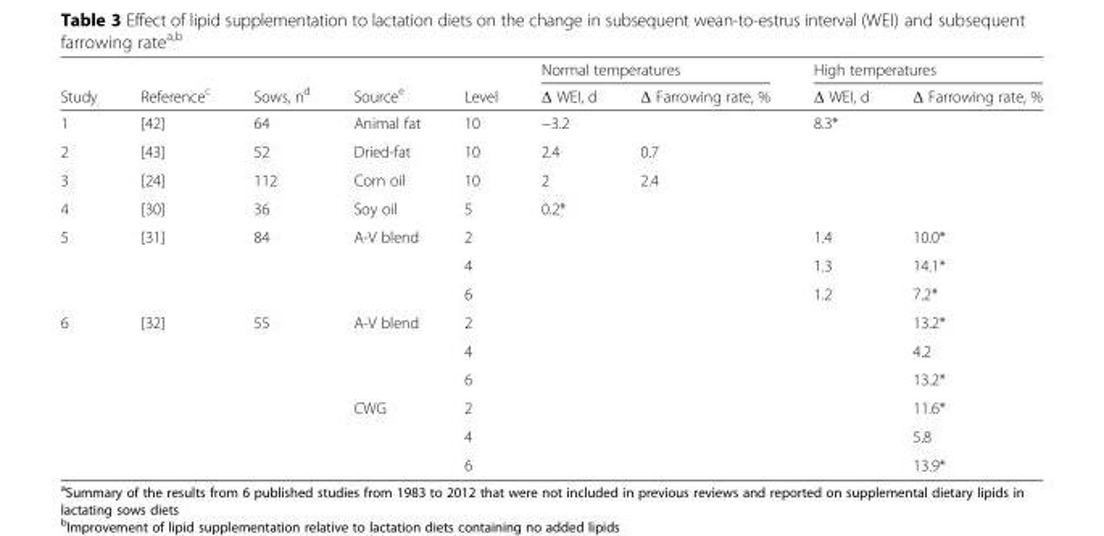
<table><thead><tr><td rowspan="2">Study</td><td rowspan="2">Reference<sup>c</sup></td><td rowspan="2">Sows, n<sup>d</sup></td><td rowspan="2">Source<sup>e</sup></td><td rowspan="2">Level</td><td colspan="2">Normal temperatures</td><td colspan="2">High temperatures</td></tr><tr><td>Δ WEI, d</td><td>Δ Farrowing rate, %</td><td>Δ WEI, d</td><td>Δ Farrowing rate, %</td></tr></thead><tbody><tr><td>1</td><td>[42]</td><td>64</td><td>Animal fat</td><td>10</td><td>−3.2</td><td></td><td>8.3*</td><td></td></tr><tr><td>2</td><td>[43]</td><td>52</td><td>Dried-fat</td><td>10</td><td>2.4</td><td>0.7</td><td></td><td></td></tr><tr><td>3</td><td>[24]</td><td>112</td><td>Corn oil</td><td>10</td><td>2</td><td>2.4</td><td></td><td></td></tr><tr><td>4</td><td>[30]</td><td>36</td><td>Soy oil</td><td>5</td><td>0.2*</td><td></td><td></td><td></td></tr><tr><td rowspan="3">5</td><td rowspan="3">[31]</td><td rowspan="3">84</td><td rowspan="3">A-V blend</td><td>2</td><td></td><td></td><td>1.4</td><td>10.0*</td></tr><tr><td>4</td><td></td><td></td><td>1.3</td><td>14.1*</td></tr><tr><td>6</td><td></td><td></td><td>1.2</td><td>7.2*</td></tr><tr><td rowspan="6">6</td><td rowspan="6">[32]</td><td rowspan="6">55</td><td rowspan="3">A-V blend</td><td>2</td><td></td><td></td><td></td><td>13.2*</td></tr><tr><td>4</td><td></td><td></td><td></td><td>4.2</td></tr><tr><td>6</td><td></td><td></td><td></td><td>13.2*</td></tr><tr><td rowspan="3">CWG</td><td>2</td><td></td><td></td><td></td><td>11.6*</td></tr><tr><td>4</td><td></td><td></td><td></td><td>5.8</td></tr><tr><td>6</td><td></td><td></td><td></td><td>13.9*</td></tr></tbody></table>